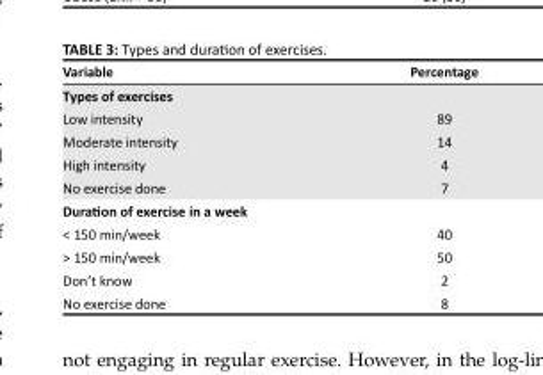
<table><thead><tr><td>Variable</td><td>Percentage</td></tr></thead><tbody><tr><td colspan="2">Types of exercises</td></tr><tr><td>Low intensity</td><td>89</td></tr><tr><td>Moderate intensity</td><td>14</td></tr><tr><td>High intensity</td><td>4</td></tr><tr><td>No exercise done</td><td>7</td></tr><tr><td colspan="2">Duration of exercise in a week</td></tr><tr><td>&lt; 150 min/week</td><td>40</td></tr><tr><td>&gt; 150 min/week</td><td>50</td></tr><tr><td>Don’t know</td><td>2</td></tr><tr><td>No exercise done</td><td>8</td></tr></tbody></table>